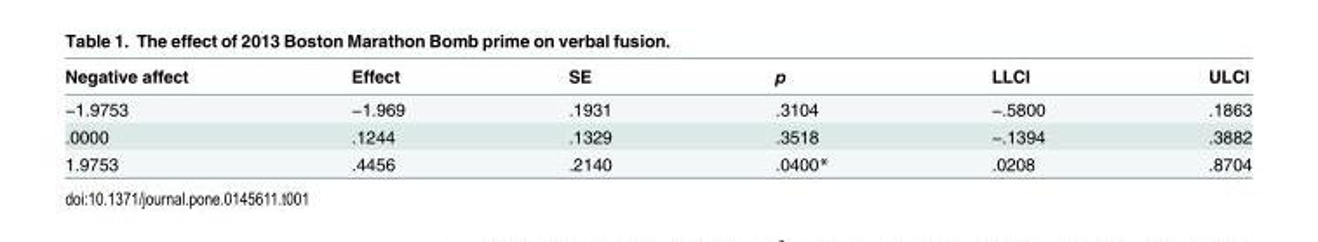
<table><thead><tr><td>Negative affect</td><td>Effect</td><td>SE</td><td>p</td><td>LLCI</td><td>ULCI</td></tr></thead><tbody><tr><td>−1.9753</td><td>−1.969</td><td>.1931</td><td>.3104</td><td>−.5800</td><td>.1863</td></tr><tr><td>.0000</td><td>.1244</td><td>.1329</td><td>.3518</td><td>−.1394</td><td>.3882</td></tr><tr><td>1.9753</td><td>.4456</td><td>.2140</td><td>.0400*</td><td>.0208</td><td>.8704</td></tr></tbody></table>